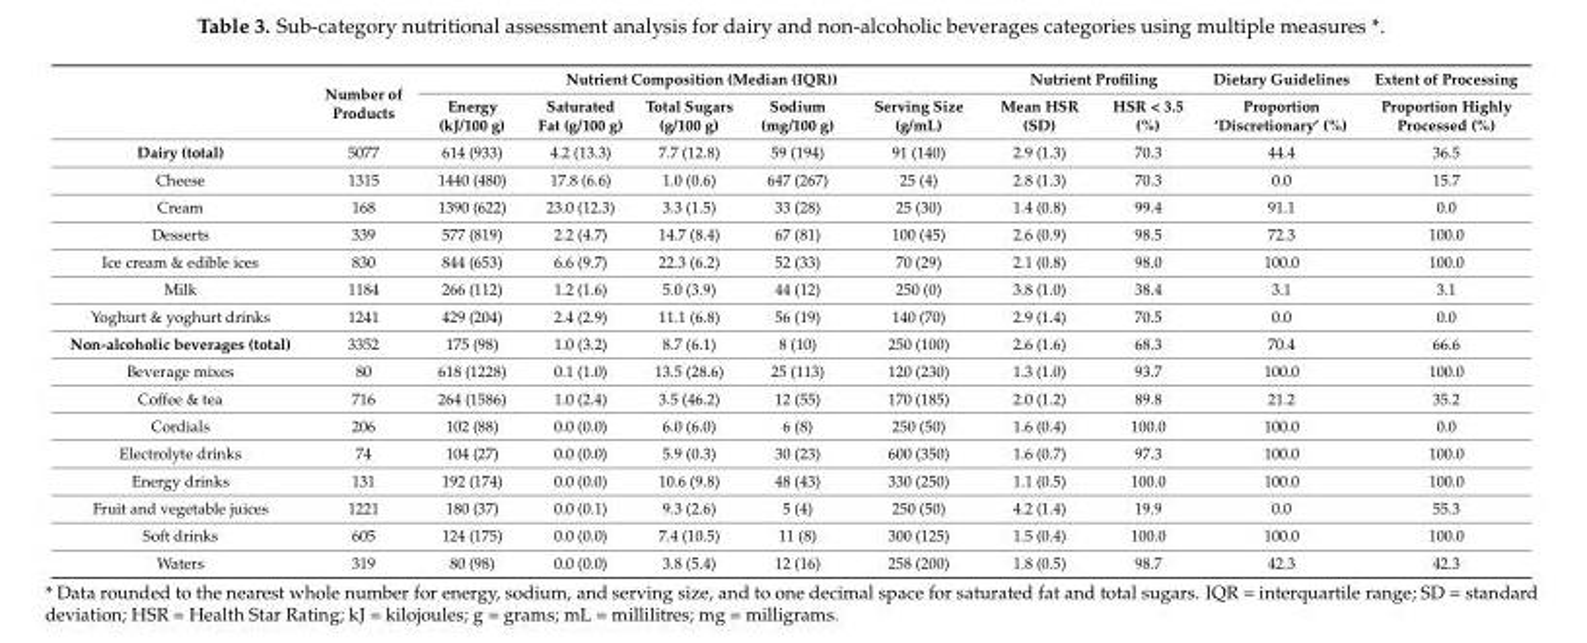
<table><thead><tr><td rowspan="2"></td><td rowspan="2">Number of Products</td><td colspan="5">Nutrient Composition (Median (IQR))</td><td colspan="2">Nutrient Profiling</td><td rowspan="2">Dietary Guidelines Proportion ‘Discretionary’ (%)</td><td rowspan="2">Extent of Processing Proportion Highly Processed (%)</td></tr><tr><td>Energy (kJ/100 g)</td><td>Saturated Fat (g/100 g)</td><td>Total Sugars (g/100 g)</td><td>Sodium (mg/100 g)</td><td>Serving Size (g/mL)</td><td>Mean HSR (SD)</td><td>HSR &lt; 3.5 (%)</td></tr></thead><tbody><tr><td>Dairy (total)</td><td>5077</td><td>614 (933)</td><td>4.2 (13.3)</td><td>7.7 (12.8)</td><td>59 (194)</td><td>91 (140)</td><td>2.9 (1.3)</td><td>70.3</td><td>44.4</td><td>36.5</td></tr><tr><td>Cheese</td><td>1315</td><td>1440 (480)</td><td>17.8 (6.6)</td><td>1.0 (0.6)</td><td>647 (267)</td><td>25 (4)</td><td>2.8 (1.3)</td><td>70.3</td><td>0.0</td><td>15.7</td></tr><tr><td>Cream</td><td>168</td><td>1390 (622)</td><td>23.0 (12.3)</td><td>3.3 (1.5)</td><td>33 (28)</td><td>25 (30)</td><td>1.4 (0.8)</td><td>99.4</td><td>91.1</td><td>0.0</td></tr><tr><td>Desserts</td><td>339</td><td>577 (819)</td><td>2.2 (4.7)</td><td>14.7 (8.4)</td><td>67 (81)</td><td>100 (45)</td><td>2.6 (0.9)</td><td>98.5</td><td>72.3</td><td>100.0</td></tr><tr><td>Ice cream &amp; edible ices</td><td>830</td><td>844 (653)</td><td>6.6 (9.7)</td><td>22.3 (6.2)</td><td>52 (33)</td><td>70 (29)</td><td>2.1 (0.8)</td><td>98.0</td><td>100.0</td><td>100.0</td></tr><tr><td>Milk</td><td>1184</td><td>266 (112)</td><td>1.2 (1.6)</td><td>5.0 (3.9)</td><td>44 (12)</td><td>250 (0)</td><td>3.8 (1.0)</td><td>38.4</td><td>3.1</td><td>3.1</td></tr><tr><td>Yoghurt &amp; yoghurt drinks</td><td>1241</td><td>429 (204)</td><td>2.4 (2.9)</td><td>11.1 (6.8)</td><td>56 (19)</td><td>140 (70)</td><td>2.9 (1.4)</td><td>70.5</td><td>0.0</td><td>0.0</td></tr><tr><td>Non-alcoholic beverages (total)</td><td>3352</td><td>175 (98)</td><td>1.0 (3.2)</td><td>8.7 (6.1)</td><td>8 (10)</td><td>250 (100)</td><td>2.6 (1.6)</td><td>68.3</td><td>70.4</td><td>66.6</td></tr><tr><td>Beverage mixes</td><td>80</td><td>618 (1228)</td><td>0.1 (1.0)</td><td>13.5 (28.6)</td><td>25 (113)</td><td>120 (230)</td><td>1.3 (1.0)</td><td>93.7</td><td>100.0</td><td>100.0</td></tr><tr><td>Coffee &amp; tea</td><td>716</td><td>264 (1586)</td><td>1.0 (2.4)</td><td>3.5 (46.2)</td><td>12 (55)</td><td>170 (185)</td><td>2.0 (1.2)</td><td>89.8</td><td>21.2</td><td>35.2</td></tr><tr><td>Cordials</td><td>206</td><td>102 (88)</td><td>0.0 (0.0)</td><td>6.0 (6.0)</td><td>6 (8)</td><td>250 (50)</td><td>1.6 (0.4)</td><td>100.0</td><td>100.0</td><td>0.0</td></tr><tr><td>Electrolyte drinks</td><td>74</td><td>104 (27)</td><td>0.0 (0.0)</td><td>5.9 (0.3)</td><td>30 (23)</td><td>600 (350)</td><td>1.6 (0.7)</td><td>97.3</td><td>100.0</td><td>100.0</td></tr><tr><td>Energy drinks</td><td>131</td><td>192 (174)</td><td>0.0 (0.0)</td><td>10.6 (9.8)</td><td>48 (43)</td><td>330 (250)</td><td>1.1 (0.5)</td><td>100.0</td><td>100.0</td><td>100.0</td></tr><tr><td>Fruit and vegetable juices</td><td>1221</td><td>180 (37)</td><td>0.0 (0.1)</td><td>9.3 (2.6)</td><td>5 (4)</td><td>250 (50)</td><td>4.2 (1.4)</td><td>19.9</td><td>0.0</td><td>55.3</td></tr><tr><td>Soft drinks</td><td>605</td><td>124 (175)</td><td>0.0 (0.0)</td><td>7.4 (10.5)</td><td>11 (8)</td><td>300 (125)</td><td>1.5 (0.4)</td><td>100.0</td><td>100.0</td><td>100.0</td></tr><tr><td>Waters</td><td>319</td><td>80 (98)</td><td>0.0 (0.0)</td><td>3.8 (5.4)</td><td>12 (16)</td><td>258 (200)</td><td>1.8 (0.5)</td><td>98.7</td><td>42.3</td><td>42.3</td></tr></tbody></table>